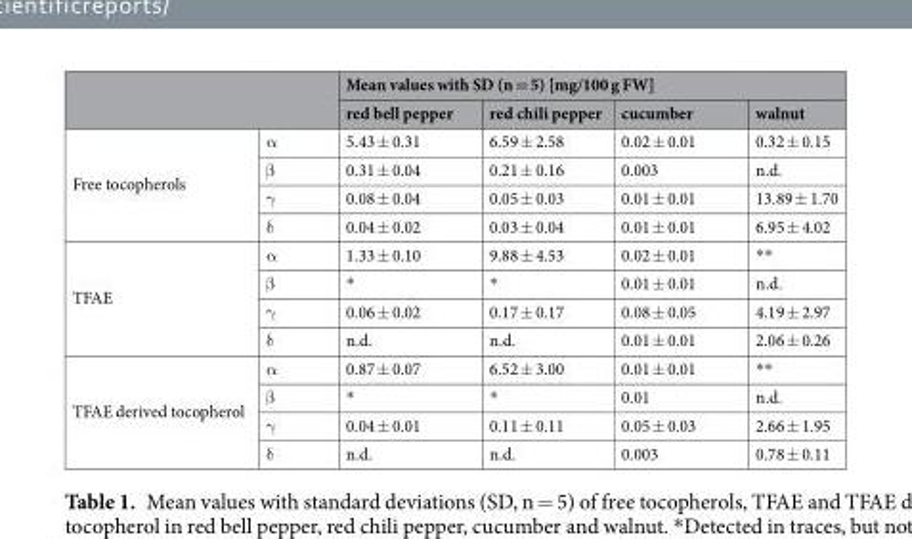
<table><thead><tr><td rowspan="2"></td><td rowspan="2"></td><td colspan="4">Mean values with SD (n = 5) [mg/100 g FW]</td></tr><tr><td>red bell pepper</td><td>red chili pepper</td><td>cucumber</td><td>walnut</td></tr></thead><tbody><tr><td rowspan="4">Free tocopherols</td><td>α</td><td>5.43 ± 0.31</td><td>6.59 ± 2.58</td><td>0.02 ± 0.01</td><td>0.32 ± 0.15</td></tr><tr><td>β</td><td>0.31 ± 0.04</td><td>0.21 ± 0.16</td><td>0.003</td><td>n.d.</td></tr><tr><td>γ</td><td>0.08 ± 0.04</td><td>0.05 ± 0.03</td><td>0.01 ± 0.01</td><td>13.89 ± 1.70</td></tr><tr><td>δ</td><td>0.04 ± 0.02</td><td>0.03 ± 0.04</td><td>0.01 ± 0.01</td><td>6.95 ± 4.02</td></tr><tr><td rowspan="4">TFAE</td><td>α</td><td>1.33 ± 0.10</td><td>9.88 ± 4.53</td><td>0.02 ± 0.01</td><td>**</td></tr><tr><td>β</td><td>*</td><td>*</td><td>0.01 ± 0.01</td><td>n.d.</td></tr><tr><td>γ</td><td>0.06 ± 0.02</td><td>0.17 ± 0.17</td><td>0.08 ± 0.05</td><td>4.19 ± 2.97</td></tr><tr><td>δ</td><td>n.d.</td><td>n.d.</td><td>0.01 ± 0.01</td><td>2.06 ± 0.26</td></tr><tr><td rowspan="4">TFAE derived tocopherol</td><td>α</td><td>0.87 ± 0.07</td><td>6.52 ± 3.00</td><td>0.01 ± 0.01</td><td>**</td></tr><tr><td>β</td><td>*</td><td>*</td><td>0.01</td><td>n.d.</td></tr><tr><td>γ</td><td>0.04 ± 0.01</td><td>0.11 ± 0.11</td><td>0.05 ± 0.03</td><td>2.66 ± 1.95</td></tr><tr><td>δ</td><td>n.d.</td><td>n.d.</td><td>0.003</td><td>0.78 ± 0.11</td></tr></tbody></table>